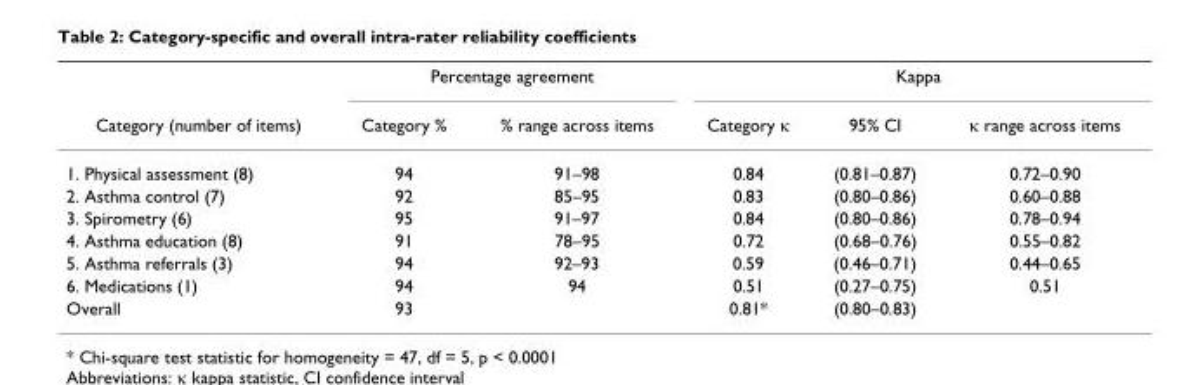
<table><thead><tr><td rowspan="2">Category (number of items)</td><td colspan="2">Percentage agreement</td><td colspan="3">Kappa</td></tr><tr><td>Category %</td><td>% range across items</td><td>Category κ</td><td>95% CI</td><td>κ range across items</td></tr></thead><tbody><tr><td>1. Physical assessment (8)</td><td>94</td><td>91–98</td><td>0.84</td><td>(0.81–0.87)</td><td>0.72–0.90</td></tr><tr><td>2. Asthma control (7)</td><td>92</td><td>85–95</td><td>0.83</td><td>(0.80–0.86)</td><td>0.60–0.88</td></tr><tr><td>3. Spirometry (6)</td><td>95</td><td>91–97</td><td>0.84</td><td>(0.80–0.86)</td><td>0.78–0.94</td></tr><tr><td>4. Asthma education (8)</td><td>91</td><td>78–95</td><td>0.72</td><td>(0.68–0.76)</td><td>0.55–0.82</td></tr><tr><td>5. Asthma referrals (3)</td><td>94</td><td>92–93</td><td>0.59</td><td>(0.46–0.71)</td><td>0.44–0.65</td></tr><tr><td>6. Medications (1)</td><td>94</td><td>94</td><td>0.51</td><td>(0.27–0.75)</td><td>0.51</td></tr><tr><td>Overall</td><td>93</td><td></td><td>0.81*</td><td>(0.80–0.83)</td><td></td></tr></tbody></table>